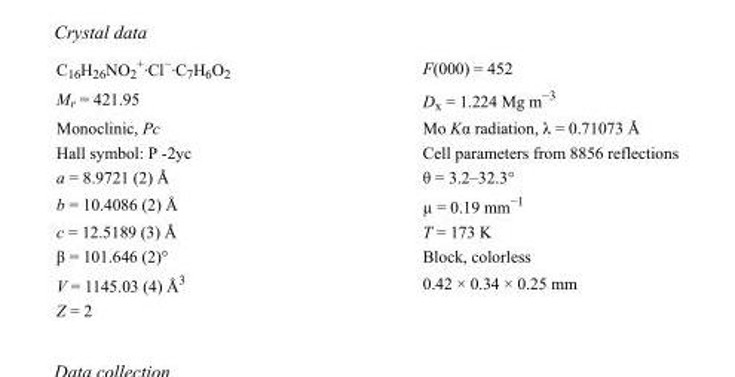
<table><tbody><tr><td>C<sub>16</sub>H<sub>26</sub>NO<sub>2</sub> <sup>+</sup>·Cl<sup>−</sup>·C<sub>7</sub>H<sub>6</sub>O<sub>2</sub></td><td>F(000) = 452</td></tr><tr><td>M<sub>r</sub> = 421.95</td><td>D<sub>x</sub> = 1.224 Mg m<sup>−3</sup></td></tr><tr><td>Monoclinic, Pc</td><td>Mo Kα radiation, λ = 0.71073 Å</td></tr><tr><td>Hall symbol: P -2yc</td><td>Cell parameters from 8856 reflections</td></tr><tr><td>a = 8.9721 (2) Å</td><td>θ = 3.2–32.3°</td></tr><tr><td>b = 10.4086 (2) Å</td><td>µ = 0.19 mm<sup>−1</sup></td></tr><tr><td>c = 12.5189 (3) Å</td><td>T = 173 K</td></tr><tr><td>β = 101.646 (2)°</td><td>Block, colorless</td></tr><tr><td>V = 1145.03 (4) Å<sup>3</sup></td><td>0.42 × 0.34 × 0.25 mm</td></tr><tr><td>Z = 2</td><td></td></tr></tbody></table>